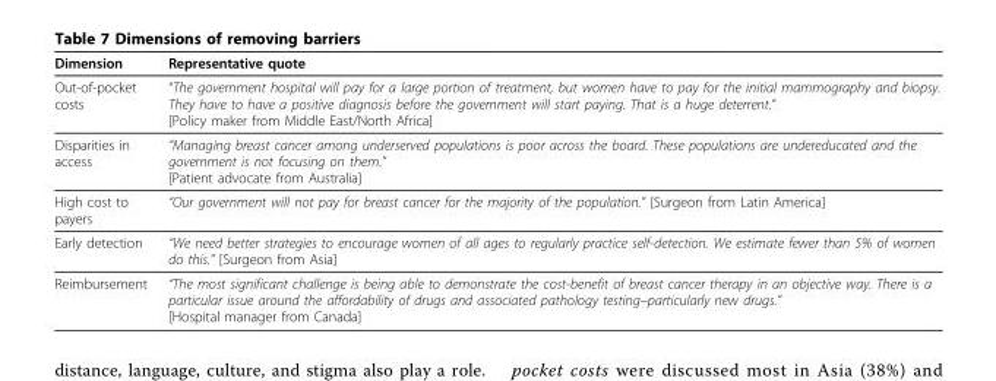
<table><thead><tr><td>Dimension</td><td>Representative quote</td></tr></thead><tbody><tr><td>Out-of-pocket costs</td><td>“The government hospital will pay for a large portion of treatment, but women have to pay for the initial mammography and biopsy. They have to have a positive diagnosis before the government will start paying. That is a huge deterrent.” [Policy maker from Middle East/North Africa]</td></tr><tr><td>Disparities in access</td><td>“Managing breast cancer among underserved populations is poor across the board. These populations are undereducated and the government is not focusing on them.” [Patient advocate from Australia]</td></tr><tr><td>High cost to payers</td><td>“Our government will not pay for breast cancer for the majority of the population.” [Surgeon from Latin America]</td></tr><tr><td>Early detection</td><td>“We need better strategies to encourage women of all ages to regularly practice self-detection. We estimate fewer than 5% of women do this.” [Surgeon from Asia]</td></tr><tr><td>Reimbursement</td><td>“The most significant challenge is being able to demonstrate the cost-benefit of breast cancer therapy in an objective way. There is a particular issue around the affordability of drugs and associated pathology testing–particularly new drugs.” [Hospital manager from Canada]</td></tr></tbody></table>